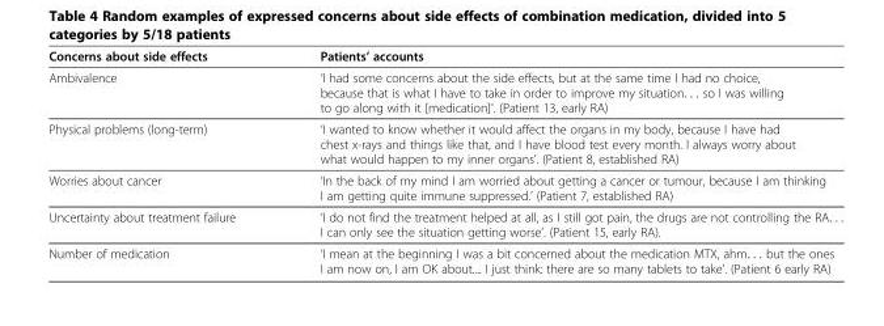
<table><thead><tr><td>Concerns about side effects</td><td>Patients’ accounts</td></tr></thead><tbody><tr><td>Ambivalence</td><td>‘I had some concerns about the side effects, but at the same time I had no choice, because that is what I have to take in order to improve my situation. . . so I was willing to go along with it [medication]’. (Patient 13, early RA)</td></tr><tr><td>Physical problems (long-term)</td><td>‘I wanted to know whether it would affect the organs in my body, because I have had chest x-rays and things like that, and I have blood test every month. I always worry about what would happen to my inner organs’. (Patient 8, established RA)</td></tr><tr><td>Worries about cancer</td><td>‘In the back of my mind I am worried about getting a cancer or tumour, because I am thinking I am getting quite immune suppressed.’ (Patient 7, established RA)</td></tr><tr><td>Uncertainty about treatment failure</td><td>‘I do not find the treatment helped at all, as I still got pain, the drugs are not controlling the RA… I can only see the situation getting worse’. (Patient 15, early RA).</td></tr><tr><td>Number of medication</td><td>‘I mean at the beginning I was a bit concerned about the medication MTX, ahm. . . but the ones I am now on, I am OK about.... I just think: there are so many tablets to take’. (Patient 6 early RA)</td></tr></tbody></table>